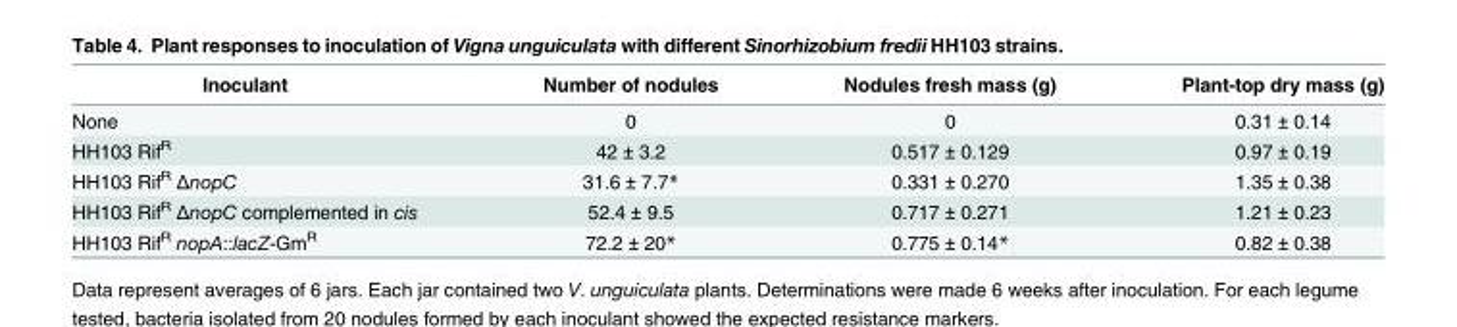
<table><thead><tr><td>Inoculant</td><td>Number of nodules</td><td>Nodules fresh mass (g)</td><td>Plant-top dry mass (g)</td></tr></thead><tbody><tr><td>None</td><td>0</td><td>0</td><td>0.31 ± 0.14</td></tr><tr><td>HH103 Rif<sup>R</sup></td><td>42 ± 3.2</td><td>0.517 ± 0.129</td><td>0.97 ± 0.19</td></tr><tr><td>HH103 Rif<sup>R</sup> ΔnopC</td><td>31.6 ± 7.7*</td><td>0.331 ± 0.270</td><td>1.35 ± 0.38</td></tr><tr><td>HH103 Rif<sup>R</sup> ΔnopC complemented in cis</td><td>52.4 ± 9.5</td><td>0.717 ± 0.271</td><td>1.21 ± 0.23</td></tr><tr><td>HH103 Rif<sup>R</sup> nopA::lacZ-Gm<sup>R</sup></td><td>72.2 ± 20*</td><td>0.775 ± 0.14*</td><td>0.82 ± 0.38</td></tr></tbody></table>